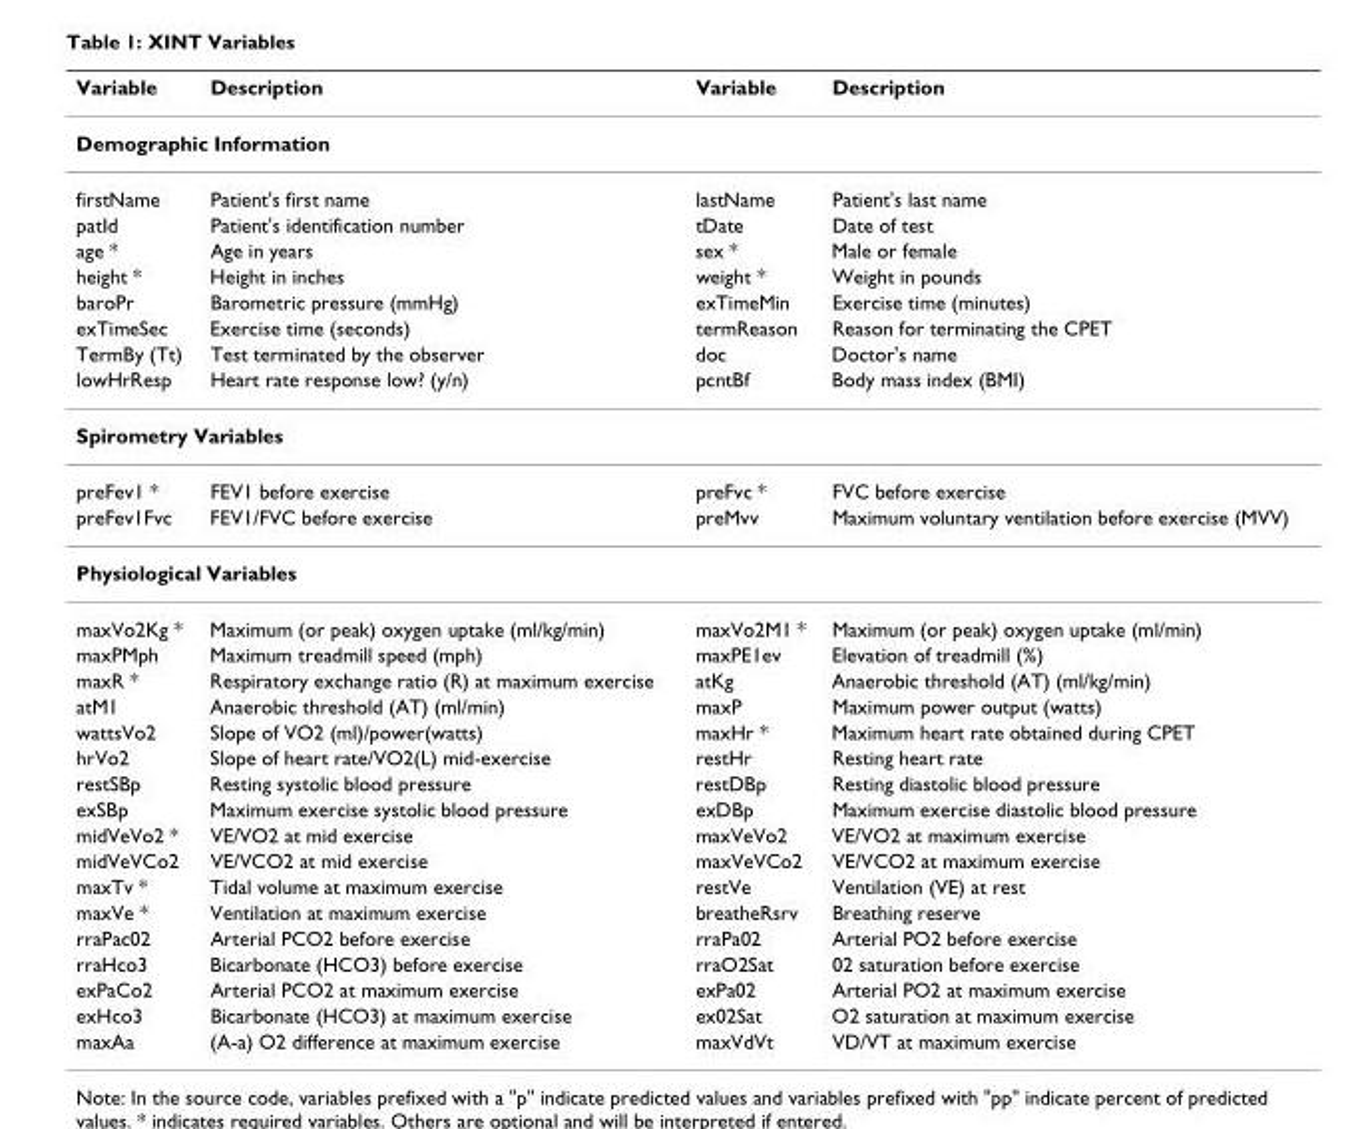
<table><thead><tr><td>Variable</td><td>Description</td><td>Variable</td><td>Description</td></tr></thead><tbody><tr><td colspan="4">Demographic Information</td></tr><tr><td>firstName</td><td>Patient&#x27;s first name</td><td>lastName</td><td>Patient&#x27;s last name</td></tr><tr><td>patId</td><td>Patient&#x27;s identification number</td><td>tDate</td><td>Date of test</td></tr><tr><td>age *</td><td>Age in years</td><td>sex *</td><td>Male or female</td></tr><tr><td>height *</td><td>Height in inches</td><td>weight *</td><td>Weight in pounds</td></tr><tr><td>baroPr</td><td>Barometric pressure (mmHg)</td><td>exTimeMin</td><td>Exercise time (minutes)</td></tr><tr><td>exTimeSec</td><td>Exercise time (seconds)</td><td>termReason</td><td>Reason for terminating the CPET</td></tr><tr><td>TermBy (Tt)</td><td>Test terminated by the observer</td><td>doc</td><td>Doctor&#x27;s name</td></tr><tr><td>lowHrResp</td><td>Heart rate response low? (y/n)</td><td>pcntBf</td><td>Body mass index (BMI)</td></tr><tr><td colspan="4">Spirometry Variables</td></tr><tr><td>preFev1 *</td><td>FEV1 before exercise</td><td>preFvc *</td><td>FVC before exercise</td></tr><tr><td>preFev1Fvc</td><td>FEV1/FVC before exercise</td><td>preMvv</td><td>Maximum voluntary ventilation before exercise (MVV)</td></tr><tr><td colspan="4">Physiological Variables</td></tr><tr><td>maxVo2Kg *</td><td>Maximum (or peak) oxygen uptake (ml/kg/min)</td><td>maxVo2M1 *</td><td>Maximum (or peak) oxygen uptake (ml/min)</td></tr><tr><td>maxPMph</td><td>Maximum treadmill speed (mph)</td><td>maxPE1ev</td><td>Elevation of treadmill (%)</td></tr><tr><td>maxR *</td><td>Respiratory exchange ratio (R) at maximum exercise</td><td>atKg</td><td>Anaerobic threshold (AT) (ml/kg/min)</td></tr><tr><td>atM1</td><td>Anaerobic threshold (AT) (ml/min)</td><td>maxP</td><td>Maximum power output (watts)</td></tr><tr><td>wattsVo2</td><td>Slope of VO2 (ml)/power(watts)</td><td>maxHr *</td><td>Maximum heart rate obtained during CPET</td></tr><tr><td>hrVo2</td><td>Slope of heart rate/VO2(L) mid-exercise</td><td>restHr</td><td>Resting heart rate</td></tr><tr><td>restSBp</td><td>Resting systolic blood pressure</td><td>restDBp</td><td>Resting diastolic blood pressure</td></tr><tr><td>exSBp</td><td>Maximum exercise systolic blood pressure</td><td>exDBp</td><td>Maximum exercise diastolic blood pressure</td></tr><tr><td>midVeVo2 *</td><td>VE/VO2 at mid exercise</td><td>maxVeVo2</td><td>VE/VO2 at maximum exercise</td></tr><tr><td>midVeVCo2</td><td>VE/VCO2 at mid exercise</td><td>maxVeVCo2</td><td>VE/VCO2 at maximum exercise</td></tr><tr><td>maxTv *</td><td>Tidal volume at maximum exercise</td><td>restVe</td><td>Ventilation (VE) at rest</td></tr><tr><td>maxVe *</td><td>Ventilation at maximum exercise</td><td>breatheRsrv</td><td>Breathing reserve</td></tr><tr><td>rraPac02</td><td>Arterial PCO2 before exercise</td><td>rraPa02</td><td>Arterial PO2 before exercise</td></tr><tr><td>rraHco3</td><td>Bicarbonate (HCO3) before exercise</td><td>rraO2Sat</td><td>02 saturation before exercise</td></tr><tr><td>exPaCo2</td><td>Arterial PCO2 at maximum exercise</td><td>exPa02</td><td>Arterial PO2 at maximum exercise</td></tr><tr><td>exHco3</td><td>Bicarbonate (HCO3) at maximum exercise</td><td>ex02Sat</td><td>O2 saturation at maximum exercise</td></tr><tr><td>maxAa</td><td>(A-a) O2 difference at maximum exercise</td><td>maxVdVt</td><td>VD/VT at maximum exercise</td></tr></tbody></table>